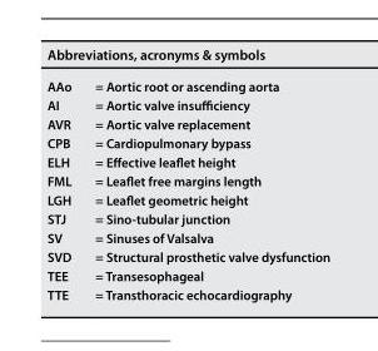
<table><thead><tr><td colspan="2">Abbreviations, acronyms &amp; symbols</td></tr><tr><td>AAo</td><td>= Aortic root or ascending aorta</td></tr></thead><tbody><tr><td>AI</td><td>= Aortic valve insufficiency</td></tr><tr><td>AVR</td><td>= Aortic valve replacement</td></tr><tr><td>CPB</td><td>= Cardiopulmonary bypass</td></tr><tr><td>ELH</td><td>= Effective leaflet height</td></tr><tr><td>FML</td><td>= Leaflet free margins length</td></tr><tr><td>LGH</td><td>= Leaflet geometric height</td></tr><tr><td>STJ</td><td>= Sino-tubular junction</td></tr><tr><td>SV</td><td>= Sinuses of Valsalva</td></tr><tr><td>SVD</td><td>= Structural prosthetic valve dysfunction</td></tr><tr><td>TEE</td><td>= Transesophageal</td></tr><tr><td>TTE</td><td>= Transthoracic echocardiography</td></tr></tbody></table>